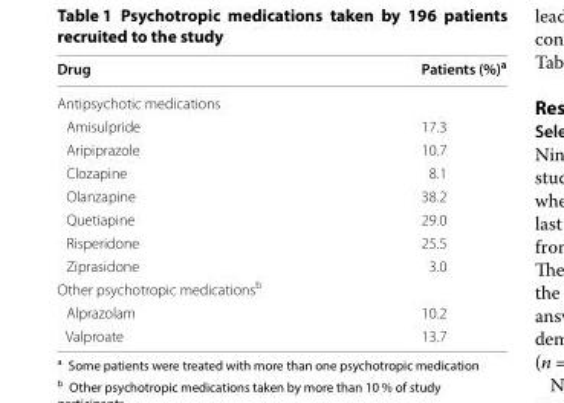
<table><thead><tr><td>Drug</td><td>Patients (%)<sup>a</sup></td></tr></thead><tbody><tr><td colspan="2">Antipsychotic medications</td></tr><tr><td>Amisulpride</td><td>17.3</td></tr><tr><td>Aripiprazole</td><td>10.7</td></tr><tr><td>Clozapine</td><td>8.1</td></tr><tr><td>Olanzapine</td><td>38.2</td></tr><tr><td>Quetiapine</td><td>29.0</td></tr><tr><td>Risperidone</td><td>25.5</td></tr><tr><td>Ziprasidone</td><td>3.0</td></tr><tr><td colspan="2">Other psychotropic medications<sup>b</sup></td></tr><tr><td>Alprazolam</td><td>10.2</td></tr><tr><td>Valproate</td><td>13.7</td></tr></tbody></table>